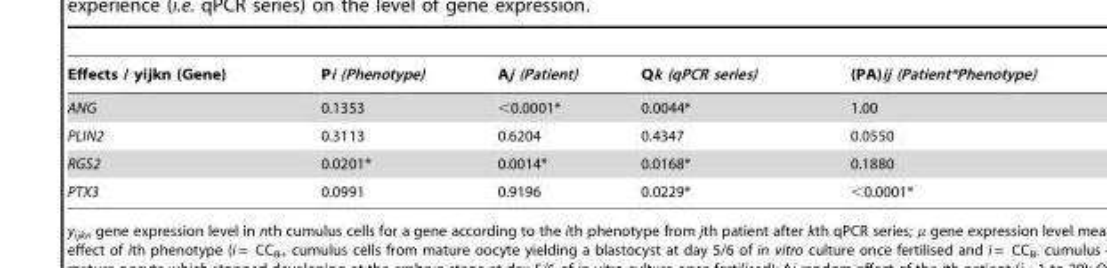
<table><thead><tr><td>Effects / yijkn (Gene)</td><td>Pi (Phenotype)</td><td>Aj (Patient)</td><td>Qk (qPCR series)</td><td>(PA)ij (Patient*Phenotype)</td></tr></thead><tbody><tr><td>ANG</td><td>0.1353</td><td>&lt;0.0001*</td><td>0.0044*</td><td>1.00</td></tr><tr><td>PLIN2</td><td>0.3113</td><td>0.6204</td><td>0.4347</td><td>0.0550</td></tr><tr><td>RGS2</td><td>0.0201*</td><td>0.0014*</td><td>0.0168*</td><td>0.1880</td></tr><tr><td>PTX3</td><td>0.0991</td><td>0.9196</td><td>0.0229*</td><td>&lt;0.0001*</td></tr></tbody></table>